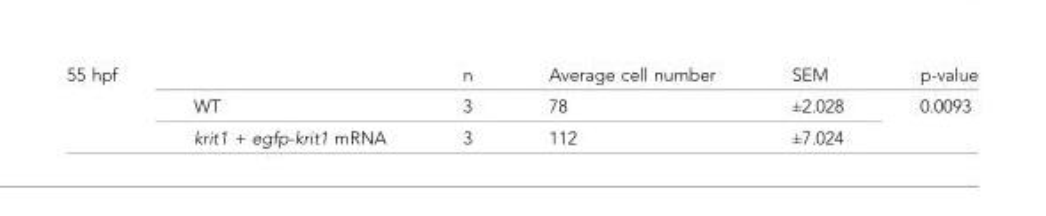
<table><tbody><tr><td rowspan="3">55 hpf</td><td></td><td>n</td><td>Average cell number</td><td>SEM</td><td>p-value</td></tr><tr><td>WT</td><td>3</td><td>78</td><td>±2.028</td><td rowspan="2">0.0093</td></tr><tr><td>krit1 + egfp-krit1 mRNA</td><td>3</td><td>112</td><td>±7.024</td></tr></tbody></table>